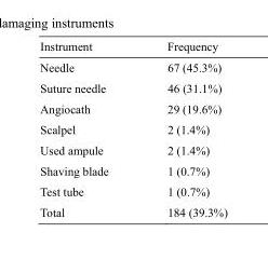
<table><thead><tr><td>Instrument</td><td>Frequency</td></tr></thead><tbody><tr><td>Needle</td><td>67 (45.3%)</td></tr><tr><td>Suture needle</td><td>46 (31.1%)</td></tr><tr><td>Angiocath</td><td>29 (19.6%)</td></tr><tr><td>Scalpel</td><td>2 (1.4%)</td></tr><tr><td>Used ampule</td><td>2 (1.4%)</td></tr><tr><td>Shaving blade</td><td>1 (0.7%)</td></tr><tr><td>Test tube</td><td>1 (0.7%)</td></tr><tr><td>Total</td><td>184 (39.3%)</td></tr></tbody></table>